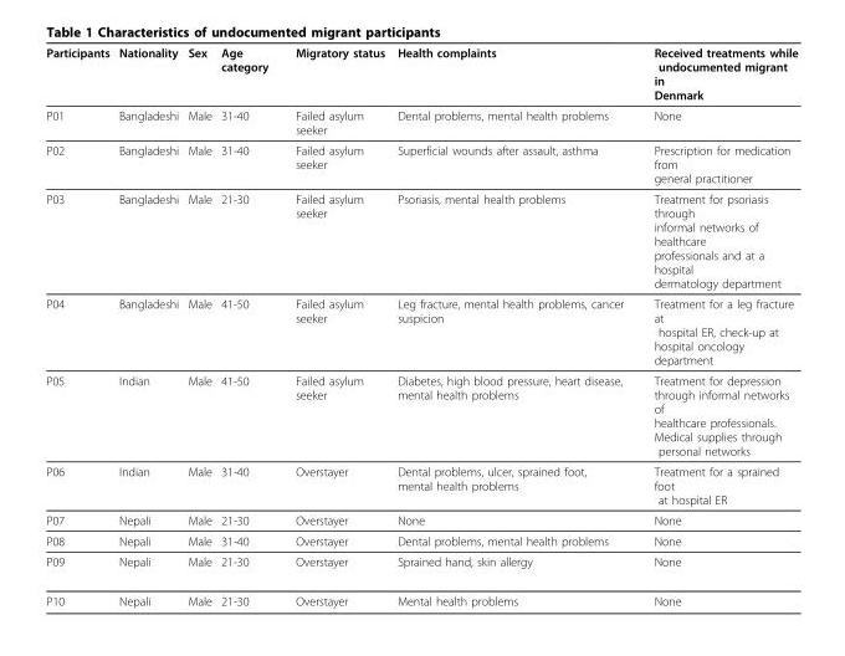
<table><thead><tr><td>Participants</td><td>Nationality</td><td>Sex</td><td>Age category</td><td>Migratory status</td><td>Health complaints</td><td>Received treatments while undocumented migrant in Denmark</td></tr></thead><tbody><tr><td>P01</td><td>Bangladeshi</td><td>Male</td><td>31-40</td><td>Failed asylum seeker</td><td>Dental problems, mental health problems</td><td>None</td></tr><tr><td>P02</td><td>Bangladeshi</td><td>Male</td><td>31-40</td><td>Failed asylum seeker</td><td>Superficial wounds after assault, asthma</td><td>Prescription for medication from general practitioner</td></tr><tr><td>P03</td><td>Bangladeshi</td><td>Male</td><td>21-30</td><td>Failed asylum seeker</td><td>Psoriasis, mental health problems</td><td>Treatment for psoriasis through informal networks of healthcare professionals and at a hospital dermatology department</td></tr><tr><td>P04</td><td>Bangladeshi</td><td>Male</td><td>41-50</td><td>Failed asylum seeker</td><td>Leg fracture, mental health problems, cancer suspicion</td><td>Treatment for a leg fracture at hospital ER, check-up at hospital oncology department</td></tr><tr><td>P05</td><td>Indian</td><td>Male</td><td>41-50</td><td>Failed asylum seeker</td><td>Diabetes, high blood pressure, heart disease, mental health problems</td><td>Treatment for depression through informal networks of healthcare professionals. Medical supplies through personal networks</td></tr><tr><td>P06</td><td>Indian</td><td>Male</td><td>31-40</td><td>Overstayer</td><td>Dental problems, ulcer, sprained foot, mental health problems</td><td>Treatment for a sprained foot at hospital ER</td></tr><tr><td>P07</td><td>Nepali</td><td>Male</td><td>21-30</td><td>Overstayer</td><td>None</td><td>None</td></tr><tr><td>P08</td><td>Nepali</td><td>Male</td><td>31-40</td><td>Overstayer</td><td>Dental problems, mental health problems</td><td>None</td></tr><tr><td>P09</td><td>Nepali</td><td>Male</td><td>21-30</td><td>Overstayer</td><td>Sprained hand, skin allergy</td><td>None</td></tr><tr><td>P10</td><td>Nepali</td><td>Male</td><td>21-30</td><td>Overstayer</td><td>Mental health problems</td><td>None</td></tr></tbody></table>